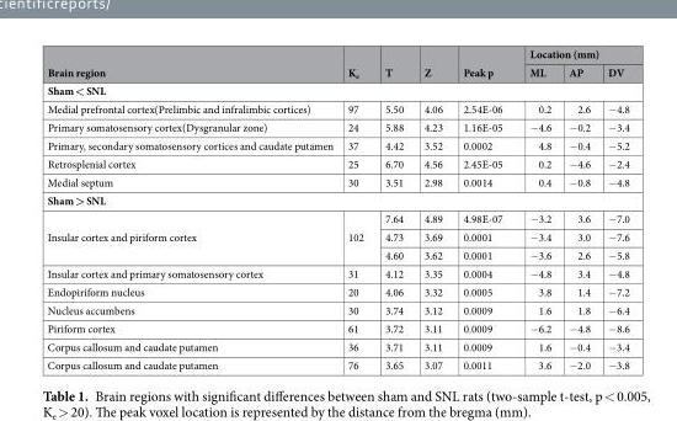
<table><thead><tr><td rowspan="2">Brain region</td><td rowspan="2">K<sub>e</sub></td><td rowspan="2">T</td><td rowspan="2">Z</td><td rowspan="2">Peak p</td><td colspan="3">Location (mm)</td></tr><tr><td>ML</td><td>AP</td><td>DV</td></tr></thead><tbody><tr><td colspan="8">Sham &lt; SNL</td></tr><tr><td>Medial prefrontal cortex(Prelimbic and infralimbic cortices)</td><td>97</td><td>5.50</td><td>4.06</td><td>2.54E-06</td><td>0.2</td><td>2.6</td><td>−4.8</td></tr><tr><td>Primary somatosensory cortex(Dysgranular zone)</td><td>24</td><td>5.88</td><td>4.23</td><td>1.16E-05</td><td>−4.6</td><td>−0.2</td><td>−3.4</td></tr><tr><td>Primary, secondary somatosensory cortices and caudate putamen</td><td>37</td><td>4.42</td><td>3.52</td><td>0.0002</td><td>4.8</td><td>−0.4</td><td>−5.2</td></tr><tr><td>Retrosplenial cortex</td><td>25</td><td>6.70</td><td>4.56</td><td>2.45E-05</td><td>0.2</td><td>−4.6</td><td>−2.4</td></tr><tr><td>Medial septum</td><td>30</td><td>3.51</td><td>2.98</td><td>0.0014</td><td>0.4</td><td>−0.8</td><td>−4.8</td></tr><tr><td colspan="8">Sham &gt; SNL</td></tr><tr><td rowspan="3">Insular cortex and piriform cortex</td><td rowspan="3">102</td><td>7.64</td><td>4.89</td><td>4.98E-07</td><td>−3.2</td><td>3.6</td><td>−7.0</td></tr><tr><td>4.73</td><td>3.69</td><td>0.0001</td><td>−3.4</td><td>3.0</td><td>−7.6</td></tr><tr><td>4.60</td><td>3.62</td><td>0.0001</td><td>−3.6</td><td>2.6</td><td>−5.8</td></tr><tr><td>Insular cortex and primary somatosensory cortex</td><td>31</td><td>4.12</td><td>3.35</td><td>0.0004</td><td>−4.8</td><td>3.4</td><td>−4.8</td></tr><tr><td>Endopiriform nucleus</td><td>20</td><td>4.06</td><td>3.32</td><td>0.0005</td><td>3.8</td><td>1.4</td><td>−7.2</td></tr><tr><td>Nucleus accumbens</td><td>30</td><td>3.74</td><td>3.12</td><td>0.0009</td><td>1.6</td><td>1.8</td><td>−6.4</td></tr><tr><td>Piriform cortex</td><td>61</td><td>3.72</td><td>3.11</td><td>0.0009</td><td>−6.2</td><td>−4.8</td><td>−8.6</td></tr><tr><td>Corpus callosum and caudate putamen</td><td>36</td><td>3.71</td><td>3.11</td><td>0.0009</td><td>1.6</td><td>−0.4</td><td>−3.4</td></tr><tr><td>Corpus callosum and caudate putamen</td><td>76</td><td>3.65</td><td>3.07</td><td>0.0011</td><td>3.6</td><td>−2.0</td><td>−3.8</td></tr></tbody></table>